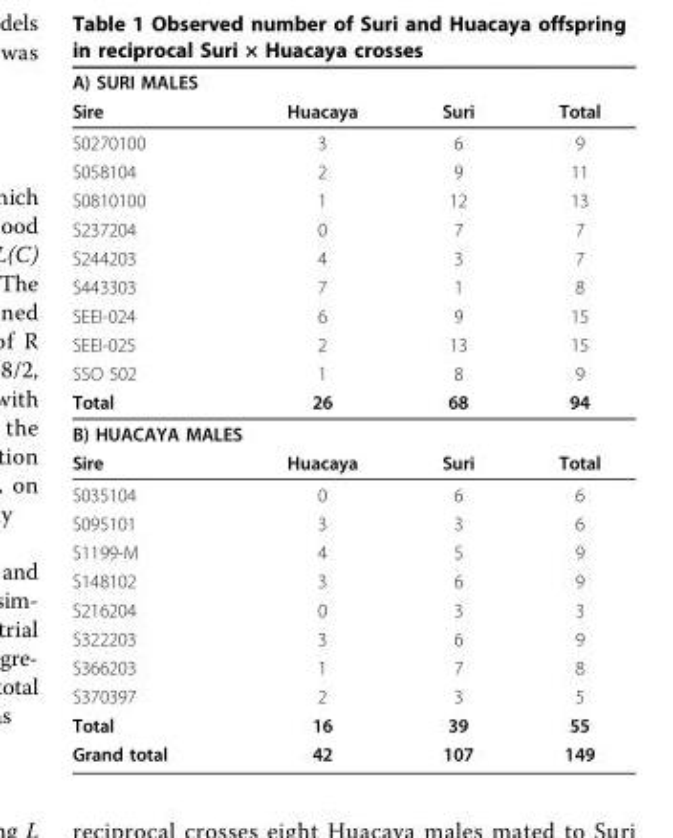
<table><thead><tr><td colspan="2">A) SURI MALES</td><td rowspan="2">Suri</td><td rowspan="2">Total</td></tr><tr><td>Sire</td><td>Huacaya</td></tr></thead><tbody><tr><td>S0270100</td><td>3</td><td>6</td><td>9</td></tr><tr><td>S058104</td><td>2</td><td>9</td><td>11</td></tr><tr><td>S0810100</td><td>1</td><td>12</td><td>13</td></tr><tr><td>S237204</td><td>0</td><td>7</td><td>7</td></tr><tr><td>S244203</td><td>4</td><td>3</td><td>7</td></tr><tr><td>S443303</td><td>7</td><td>1</td><td>8</td></tr><tr><td>SEEI-024</td><td>6</td><td>9</td><td>15</td></tr><tr><td>SEEI-025</td><td>2</td><td>13</td><td>15</td></tr><tr><td>SSO 502</td><td>1</td><td>8</td><td>9</td></tr><tr><td>Total</td><td>26</td><td>68</td><td>94</td></tr><tr><td colspan="4">B) HUACAYA MALES</td></tr><tr><td>Sire</td><td>Huacaya</td><td>Suri</td><td>Total</td></tr><tr><td>S035104</td><td>0</td><td>6</td><td>6</td></tr><tr><td>S095101</td><td>3</td><td>3</td><td>6</td></tr><tr><td>S1199-M</td><td>4</td><td>5</td><td>9</td></tr><tr><td>S148102</td><td>3</td><td>6</td><td>9</td></tr><tr><td>S216204</td><td>0</td><td>3</td><td>3</td></tr><tr><td>S322203</td><td>3</td><td>6</td><td>9</td></tr><tr><td>S366203</td><td>1</td><td>7</td><td>8</td></tr><tr><td>S370397</td><td>2</td><td>3</td><td>5</td></tr><tr><td>Total</td><td>16</td><td>39</td><td>55</td></tr><tr><td>Grand total</td><td>42</td><td>107</td><td>149</td></tr></tbody></table>